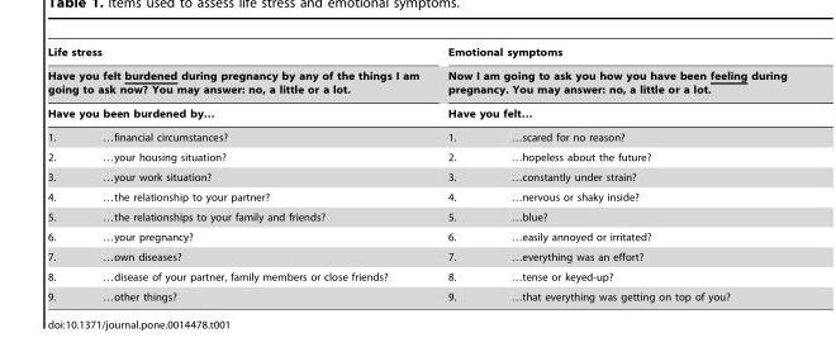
<table><thead><tr><td rowspan="3" colspan="2">Life stress Have you felt burdened during pregnancy by any of the things I am going to ask now? You may answer: no, a little or a lot. Have you been burdened by…</td><td rowspan="3" colspan="2">Emotional symptoms Now I am going to ask you how you have been feeling during pregnancy. You may answer: no, a little or a lot. Have you felt…</td></tr><tr></tr><tr></tr><tr><td>1.</td><td>…financial circumstances?</td><td>1.</td><td>…scared for no reason?</td></tr></thead><tbody><tr><td>2.</td><td>…your housing situation?</td><td>2.</td><td>…hopeless about the future?</td></tr><tr><td>3.</td><td>…your work situation?</td><td>3.</td><td>…constantly under strain?</td></tr><tr><td>4.</td><td>…the relationship to your partner?</td><td>4.</td><td>…nervous or shaky inside?</td></tr><tr><td>5.</td><td>…the relationships to your family and friends?</td><td>5.</td><td>…blue?</td></tr><tr><td>6.</td><td>…your pregnancy?</td><td>6.</td><td>…easily annoyed or irritated?</td></tr><tr><td>7.</td><td>…own diseases?</td><td>7.</td><td>…everything was an effort?</td></tr><tr><td>8.</td><td>…disease of your partner, family members or close friends?</td><td>8.</td><td>…tense or keyed-up?</td></tr><tr><td>9.</td><td>…other things?</td><td>9.</td><td>…that everything was getting on top of you?</td></tr></tbody></table>